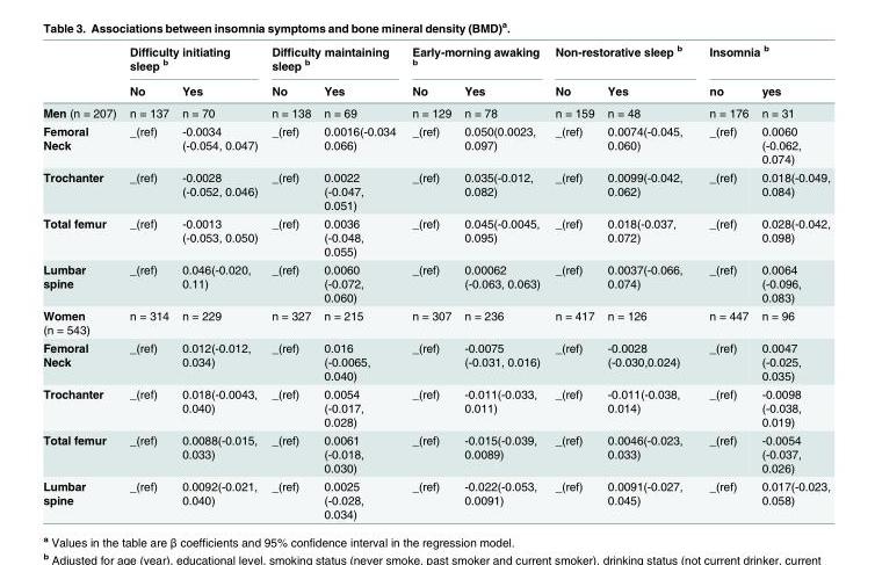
<table><thead><tr><td rowspan="2"></td><td colspan="2">Difficulty initiating sleep <sup>b</sup></td><td colspan="2">Difficulty maintaining sleep <sup>b</sup></td><td colspan="2">Early-morning awaking <sup>b</sup></td><td colspan="2">Non-restorative sleep <sup>b</sup></td><td colspan="2">Insomnia <sup>b</sup></td></tr><tr><td>No</td><td>Yes</td><td>No</td><td>Yes</td><td>No</td><td>Yes</td><td>No</td><td>Yes</td><td>no</td><td>yes</td></tr></thead><tbody><tr><td>Men (n = 207)</td><td>n = 137</td><td>n = 70</td><td>n = 138</td><td>n = 69</td><td>n = 129</td><td>n = 78</td><td>n = 159</td><td>n = 48</td><td>n = 176</td><td>n = 31</td></tr><tr><td>Femoral Neck</td><td>_(ref)</td><td>-0.0034 (-0.054, 0.047)</td><td>_(ref)</td><td>0.0016(-0.034 0.066)</td><td>_(ref)</td><td>0.050(0.0023, 0.097)</td><td>_(ref)</td><td>0.0074(-0.045, 0.060)</td><td>_(ref)</td><td>0.0060 (-0.062, 0.074)</td></tr><tr><td>Trochanter</td><td>_(ref)</td><td>-0.0028 (-0.052, 0.046)</td><td>_(ref)</td><td>0.0022 (-0.047, 0.051)</td><td>_(ref)</td><td>0.035(-0.012, 0.082)</td><td>_(ref)</td><td>0.0099(-0.042, 0.062)</td><td>_(ref)</td><td>0.018(-0.049, 0.084)</td></tr><tr><td>Total femur</td><td>_(ref)</td><td>-0.0013 (-0.053, 0.050)</td><td>_(ref)</td><td>0.0036 (-0.048, 0.055)</td><td>_(ref)</td><td>0.045(-0.0045, 0.095)</td><td>_(ref)</td><td>0.018(-0.037, 0.072)</td><td>_(ref)</td><td>0.028(-0.042, 0.098)</td></tr><tr><td>Lumbar spine</td><td>_(ref)</td><td>0.046(-0.020, 0.11)</td><td>_(ref)</td><td>0.0060 (-0.072, 0.060)</td><td>_(ref)</td><td>0.00062 (-0.063, 0.063)</td><td>_(ref)</td><td>0.0037(-0.066, 0.074)</td><td>_(ref)</td><td>0.0064 (-0.096, 0.083)</td></tr><tr><td>Women (n = 543)</td><td>n = 314</td><td>n = 229</td><td>n = 327</td><td>n = 215</td><td>n = 307</td><td>n = 236</td><td>n = 417</td><td>n = 126</td><td>n = 447</td><td>n = 96</td></tr><tr><td>Femoral Neck</td><td>_(ref)</td><td>0.012(-0.012, 0.034)</td><td>_(ref)</td><td>0.016 (-0.0065, 0.040)</td><td>_(ref)</td><td>-0.0075 (-0.031, 0.016)</td><td>_(ref)</td><td>-0.0028 (-0.030,0.024)</td><td>_(ref)</td><td>0.0047 (-0.025, 0.035)</td></tr><tr><td>Trochanter</td><td>_(ref)</td><td>0.018(-0.0043, 0.040)</td><td>_(ref)</td><td>0.0054 (-0.017, 0.028)</td><td>_(ref)</td><td>-0.011(-0.033, 0.011)</td><td>_(ref)</td><td>-0.011(-0.038, 0.014)</td><td>_(ref)</td><td>-0.0098 (-0.038, 0.019)</td></tr><tr><td>Total femur</td><td>_(ref)</td><td>0.0088(-0.015, 0.033)</td><td>_(ref)</td><td>0.0061 (-0.018, 0.030)</td><td>_(ref)</td><td>-0.015(-0.039, 0.0089)</td><td>_(ref)</td><td>0.0046(-0.023, 0.033)</td><td>_(ref)</td><td>-0.0054 (-0.037, 0.026)</td></tr><tr><td>Lumbar spine</td><td>_(ref)</td><td>0.0092(-0.021, 0.040)</td><td>_(ref)</td><td>0.0025 (-0.028, 0.034)</td><td>_(ref)</td><td>-0.022(-0.053, 0.0091)</td><td>_(ref)</td><td>0.0091(-0.027, 0.045)</td><td>_(ref)</td><td>0.017(-0.023, 0.058)</td></tr></tbody></table>